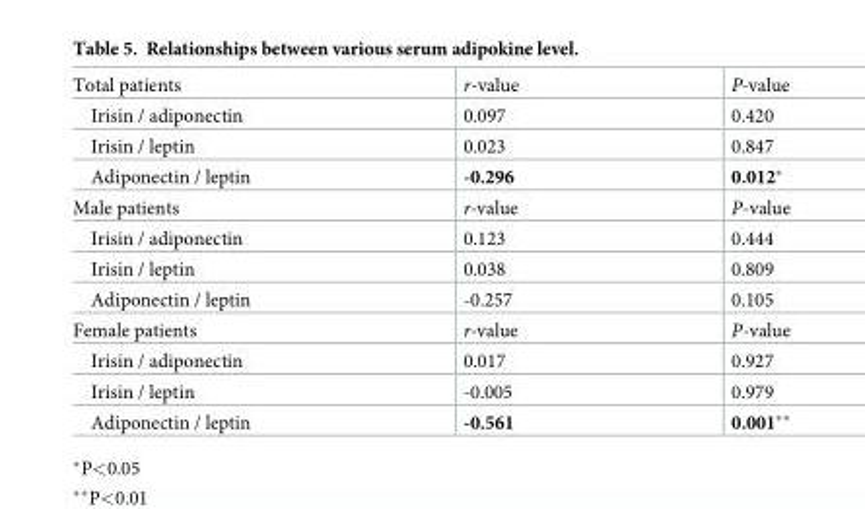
<table><tbody><tr><td>Total patients</td><td>r-value</td><td>P-value</td></tr><tr><td>Irisin / adiponectin</td><td>0.097</td><td>0.420</td></tr><tr><td>Irisin / leptin</td><td>0.023</td><td>0.847</td></tr><tr><td>Adiponectin / leptin</td><td>-0.296</td><td>0.012*</td></tr><tr><td>Male patients</td><td>r-value</td><td>P-value</td></tr><tr><td>Irisin / adiponectin</td><td>0.123</td><td>0.444</td></tr><tr><td>Irisin / leptin</td><td>0.038</td><td>0.809</td></tr><tr><td>Adiponectin / leptin</td><td>-0.257</td><td>0.105</td></tr><tr><td>Female patients</td><td>r-value</td><td>P-value</td></tr><tr><td>Irisin / adiponectin</td><td>0.017</td><td>0.927</td></tr><tr><td>Irisin / leptin</td><td>-0.005</td><td>0.979</td></tr><tr><td>Adiponectin / leptin</td><td>-0.561</td><td>0.001**</td></tr></tbody></table>